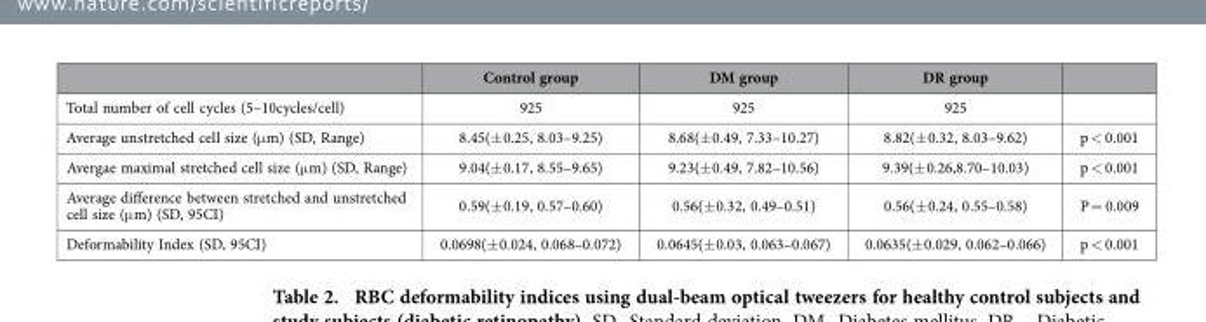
<table><thead><tr><td></td><td>Control group</td><td>DM group</td><td>DR group</td><td></td></tr></thead><tbody><tr><td>Total number of cell cycles (5–10cycles/cell)</td><td>925</td><td>925</td><td>925</td><td></td></tr><tr><td>Average unstretched cell size (μ m) (SD, Range)</td><td>8.45(± 0.25, 8.03–9.25)</td><td>8.68(± 0.49, 7.33–10.27)</td><td>8.82(± 0.32, 8.03–9.62)</td><td>p &lt; 0.001</td></tr><tr><td>Avergae maximal stretched cell size (μ m) (SD, Range)</td><td>9.04(± 0.17, 8.55–9.65)</td><td>9.23(± 0.49, 7.82–10.56)</td><td>9.39(± 0.26,8.70–10.03)</td><td>p &lt; 0.001</td></tr><tr><td>Average difference between stretched and unstretched cell size (μ m) (SD, 95CI)</td><td>0.59(± 0.19, 0.57–0.60)</td><td>0.56(± 0.32, 0.49–0.51)</td><td>0.56(± 0.24, 0.55–0.58)</td><td>P = 0.009</td></tr><tr><td>Deformability Index (SD, 95CI)</td><td>0.0698(± 0.024, 0.068–0.072)</td><td>0.0645(± 0.03, 0.063–0.067)</td><td>0.0635(± 0.029, 0.062–0.066)</td><td>p &lt; 0.001</td></tr></tbody></table>